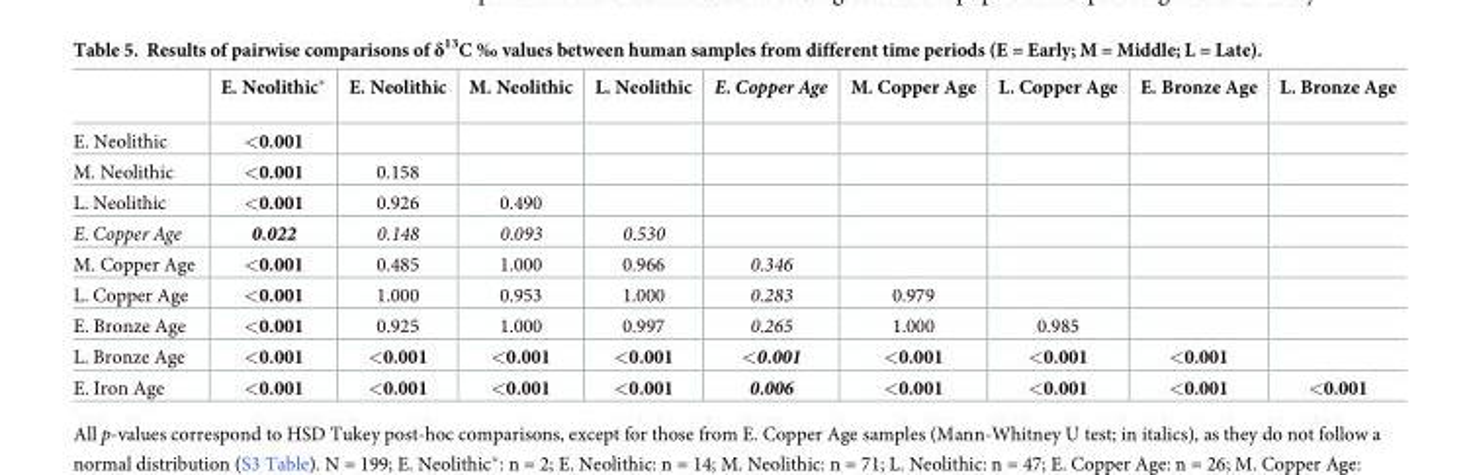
<table><thead><tr><td></td><td>E. Neolithic*</td><td>E. Neolithic</td><td>M. Neolithic</td><td>L. Neolithic</td><td>E. Copper Age</td><td>M. Copper Age</td><td>L. Copper Age</td><td>E. Bronze Age</td><td>L. Bronze Age</td></tr></thead><tbody><tr><td>E. Neolithic</td><td>&lt;0.001</td><td></td><td></td><td></td><td></td><td></td><td></td><td></td><td></td></tr><tr><td>M. Neolithic</td><td>&lt;0.001</td><td>0.158</td><td></td><td></td><td></td><td></td><td></td><td></td><td></td></tr><tr><td>L. Neolithic</td><td>&lt;0.001</td><td>0.926</td><td>0.490</td><td></td><td></td><td></td><td></td><td></td><td></td></tr><tr><td>E. Copper Age</td><td>0.022</td><td>0.148</td><td>0.093</td><td>0.530</td><td></td><td></td><td></td><td></td><td></td></tr><tr><td>M. Copper Age</td><td>&lt;0.001</td><td>0.485</td><td>1.000</td><td>0.966</td><td>0.346</td><td></td><td></td><td></td><td></td></tr><tr><td>L. Copper Age</td><td>&lt;0.001</td><td>1.000</td><td>0.953</td><td>1.000</td><td>0.283</td><td>0.979</td><td></td><td></td><td></td></tr><tr><td>E. Bronze Age</td><td>&lt;0.001</td><td>0.925</td><td>1.000</td><td>0.997</td><td>0.265</td><td>1.000</td><td>0.985</td><td></td><td></td></tr><tr><td>L. Bronze Age</td><td>&lt;0.001</td><td>&lt;0.001</td><td>&lt;0.001</td><td>&lt;0.001</td><td>&lt;0.001</td><td>&lt;0.001</td><td>&lt;0.001</td><td>&lt;0.001</td><td></td></tr><tr><td>E. Iron Age</td><td>&lt;0.001</td><td>&lt;0.001</td><td>&lt;0.001</td><td>&lt;0.001</td><td>0.006</td><td>&lt;0.001</td><td>&lt;0.001</td><td>&lt;0.001</td><td>&lt;0.001</td></tr></tbody></table>